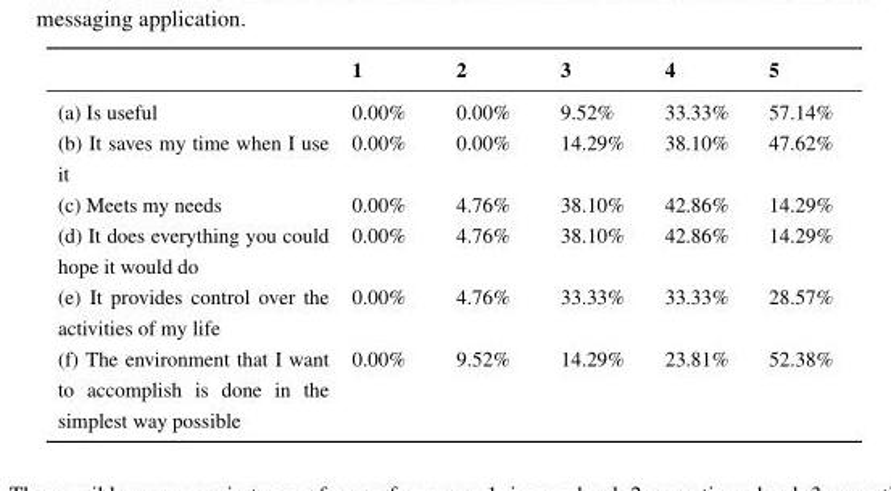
<table><thead><tr><td></td><td>1</td><td>2</td><td>3</td><td>4</td><td>5</td></tr></thead><tbody><tr><td>(a) Is useful</td><td>0.00%</td><td>0.00%</td><td>9.52%</td><td>33.33%</td><td>57.14%</td></tr><tr><td>(b) It saves my time when I use it</td><td>0.00%</td><td>0.00%</td><td>14.29%</td><td>38.10%</td><td>47.62%</td></tr><tr><td>(c) Meets my needs</td><td>0.00%</td><td>4.76%</td><td>38.10%</td><td>42.86%</td><td>14.29%</td></tr><tr><td>(d) It does everything you could hope it would do</td><td>0.00%</td><td>4.76%</td><td>38.10%</td><td>42.86%</td><td>14.29%</td></tr><tr><td>(e) It provides control over the activities of my life</td><td>0.00%</td><td>4.76%</td><td>33.33%</td><td>33.33%</td><td>28.57%</td></tr><tr><td>(f) The environment that I want to accomplish is done in the simplest way possible</td><td>0.00%</td><td>9.52%</td><td>14.29%</td><td>23.81%</td><td>52.38%</td></tr></tbody></table>